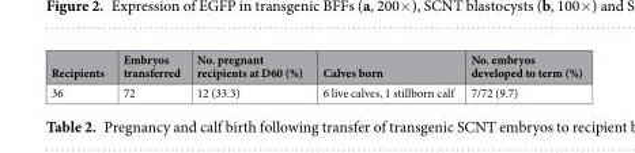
<table><thead><tr><td>Recipients</td><td>Embryos transferred</td><td>No. pregnant recipients at D60 (%)</td><td>Calves born</td><td>No. embryos developed to term (%)</td></tr></thead><tbody><tr><td>36</td><td>72</td><td>12 (33.3)</td><td>6 live calves, 1 stillborn calf</td><td>7/72 (9.7)</td></tr></tbody></table>